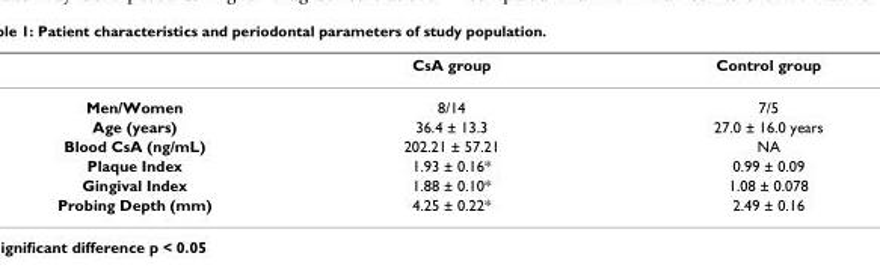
<table><thead><tr><td></td><td>CsA group</td><td>Control group</td></tr></thead><tbody><tr><td>Men/Women</td><td>8/14</td><td>7/5</td></tr><tr><td>Age (years)</td><td>36.4 ± 13.3</td><td>27.0 ± 16.0 years</td></tr><tr><td>Blood CsA (ng/mL)</td><td>202.21 ± 57.21</td><td>NA</td></tr><tr><td>Plaque Index</td><td>1.93 ± 0.16*</td><td>0.99 ± 0.09</td></tr><tr><td>Gingival Index</td><td>1.88 ± 0.10*</td><td>1.08 ± 0.078</td></tr><tr><td>Probing Depth (mm)</td><td>4.25 ± 0.22*</td><td>2.49 ± 0.16</td></tr></tbody></table>